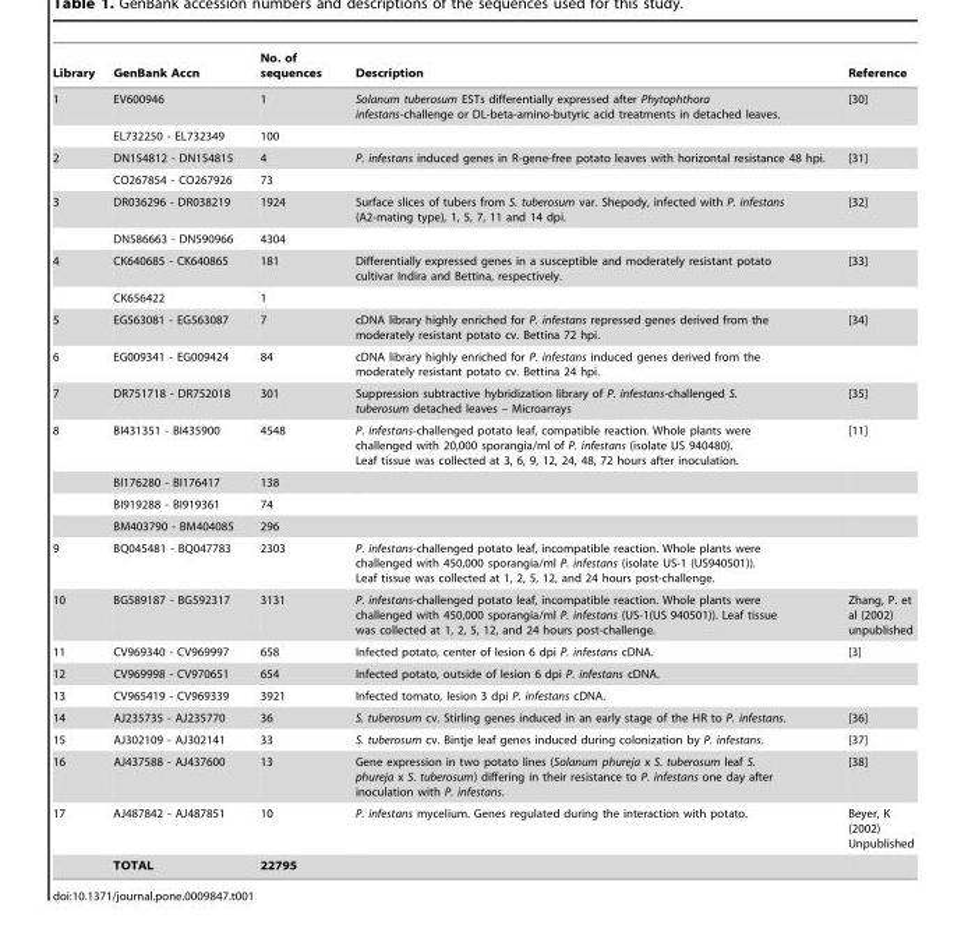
<table><thead><tr><td>Library</td><td>GenBank Accn</td><td>No. of sequences</td><td>Description</td><td>Reference</td></tr></thead><tbody><tr><td rowspan="2">1</td><td>EV600946</td><td>1</td><td>Solanum tuberosum ESTs differentially expressed after Phytophthora infestans-challenge or DL-beta-amino-butyric acid treatments in detached leaves.</td><td>[30]</td></tr><tr><td>EL732250 - EL732349</td><td>100</td><td></td><td></td></tr><tr><td rowspan="2">2</td><td>DN154812 - DN154815</td><td>4</td><td>P. infestans induced genes in R-gene-free potato leaves with horizontal resistance 48 hpi.</td><td>[31]</td></tr><tr><td>CO267854 - CO267926</td><td>73</td><td></td><td></td></tr><tr><td rowspan="2">3</td><td>DR036296 - DR038219</td><td>1924</td><td>Surface slices of tubers from S. tuberosum var. Shepody, infected with P. infestans (A2-mating type), 1, 5, 7, 11 and 14 dpi.</td><td>[32]</td></tr><tr><td>DN586663 - DN590966</td><td>4304</td><td></td><td></td></tr><tr><td rowspan="2">4</td><td>CK640685 - CK640865</td><td>181</td><td>Differentially expressed genes in a susceptible and moderately resistant potato cultivar Indira and Bettina, respectively.</td><td>[33]</td></tr><tr><td>CK656422</td><td>1</td><td></td><td></td></tr><tr><td>5</td><td>EG563081 - EG563087</td><td>7</td><td>cDNA library highly enriched for P. infestans repressed genes derived from the moderately resistant potato cv. Bettina 72 hpi.</td><td>[34]</td></tr><tr><td>6</td><td>EG009341 - EG009424</td><td>84</td><td>cDNA library highly enriched for P. infestans induced genes derived from the moderately resistant potato cv. Bettina 24 hpi.</td><td></td></tr><tr><td>7</td><td>DR751718 - DR752018</td><td>301</td><td>Suppression subtractive hybridization library of P. infestans-challenged S. tuberosum detached leaves – Microarrays</td><td>[35]</td></tr><tr><td rowspan="4">8</td><td>BI431351 - BI435900</td><td>4548</td><td>P. infestans-challenged potato leaf, compatible reaction. Whole plants were challenged with 20,000 sporangia/ml of P. infestans (isolate US 940480). Leaf tissue was collected at 3, 6, 9, 12, 24, 48, 72 hours after inoculation.</td><td>[11]</td></tr><tr><td>BI176280 - BI176417</td><td>138</td><td></td><td></td></tr><tr><td>BI919288 - BI919361</td><td>74</td><td></td><td></td></tr><tr><td>BM403790 - BM404085</td><td>296</td><td></td><td></td></tr><tr><td>9</td><td>BQ045481 - BQ047783</td><td>2303</td><td>P. infestans-challenged potato leaf, incompatible reaction. Whole plants were challenged with 450,000 sporangia/ml P. infestans (isolate US-1 (US940501)). Leaf tissue was collected at 1, 2, 5, 12, and 24 hours post-challenge.</td><td></td></tr><tr><td>10</td><td>BG589187 - BG592317</td><td>3131</td><td>P. infestans-challenged potato leaf, incompatible reaction. Whole plants were challenged with 450,000 sporangia/ml P. infestans (US-1(US 940501)). Leaf tissue was collected at 1, 2, 5, 12, and 24 hours post-challenge.</td><td>Zhang, P. et al (2002) unpublished</td></tr><tr><td>11</td><td>CV969340 - CV969997</td><td>658</td><td>Infected potato, center of lesion 6 dpi P. infestans cDNA.</td><td>[3]</td></tr><tr><td>12</td><td>CV969998 - CV970651</td><td>654</td><td>Infected potato, outside of lesion 6 dpi P. infestans cDNA.</td><td></td></tr><tr><td>13</td><td>CV965419 - CV969339</td><td>3921</td><td>Infected tomato, lesion 3 dpi P. infestans cDNA.</td><td></td></tr><tr><td>14</td><td>AJ235735 - AJ235770</td><td>36</td><td>S. tuberosum cv. Stirling genes induced in an early stage of the HR to P. infestans.</td><td>[36]</td></tr><tr><td>15</td><td>AJ302109 - AJ302141</td><td>33</td><td>S. tuberosum cv. Bintje leaf genes induced during colonization by P. infestans.</td><td>[37]</td></tr><tr><td>16</td><td>AJ437588 - AJ437600</td><td>13</td><td>Gene expression in two potato lines (Solanum phureja x S. tuberosum leaf S. phureja x S. tuberosum) differing in their resistance to P. infestans one day after inoculation with P. infestans.</td><td>[38]</td></tr><tr><td rowspan="2">17</td><td>AJ487842 - AJ487851</td><td>10</td><td>P. infestans mycelium. Genes regulated during the interaction with potato.</td><td>Beyer, K (2002) Unpublished</td></tr><tr><td>TOTAL</td><td>22795</td><td></td><td></td></tr></tbody></table>